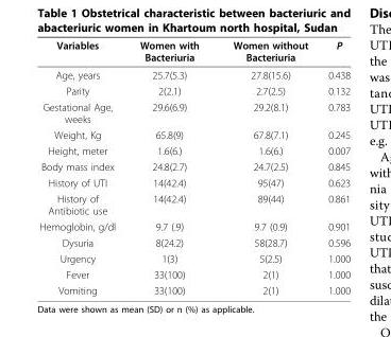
<table><thead><tr><td>Variables</td><td>Women with Bacteriuria</td><td>Women without Bacteriuria</td><td>P</td></tr></thead><tbody><tr><td>Age, years</td><td>25.7(5.3)</td><td>27.8(15.6)</td><td>0.438</td></tr><tr><td>Parity</td><td>2(2.1)</td><td>2.7(2.5)</td><td>0.132</td></tr><tr><td>Gestational Age, weeks</td><td>29.6(6.9)</td><td>29.2(8.1)</td><td>0.783</td></tr><tr><td>Weight, Kg</td><td>65.8(9)</td><td>67.8(7.1)</td><td>0.245</td></tr><tr><td>Height, meter</td><td>1.6(6.)</td><td>1.6(6.)</td><td>0.007</td></tr><tr><td>Body mass index</td><td>24.8(2.7)</td><td>24.7(2.5)</td><td>0.845</td></tr><tr><td>History of UTI</td><td>14(42.4)</td><td>95(47)</td><td>0.623</td></tr><tr><td>History of Antibiotic use</td><td>14(42.4)</td><td>89(44)</td><td>0.861</td></tr><tr><td>Hemoglobin, g/dl</td><td>9.7 (.9)</td><td>9.7 (0.9)</td><td>0.901</td></tr><tr><td>Dysuria</td><td>8(24.2)</td><td>58(28.7)</td><td>0.596</td></tr><tr><td>Urgency</td><td>1(3)</td><td>5(2.5)</td><td>1.000</td></tr><tr><td>Fever</td><td>33(100)</td><td>2(1)</td><td>1.000</td></tr><tr><td>Vomiting</td><td>33(100)</td><td>2(1)</td><td>1.000</td></tr></tbody></table>